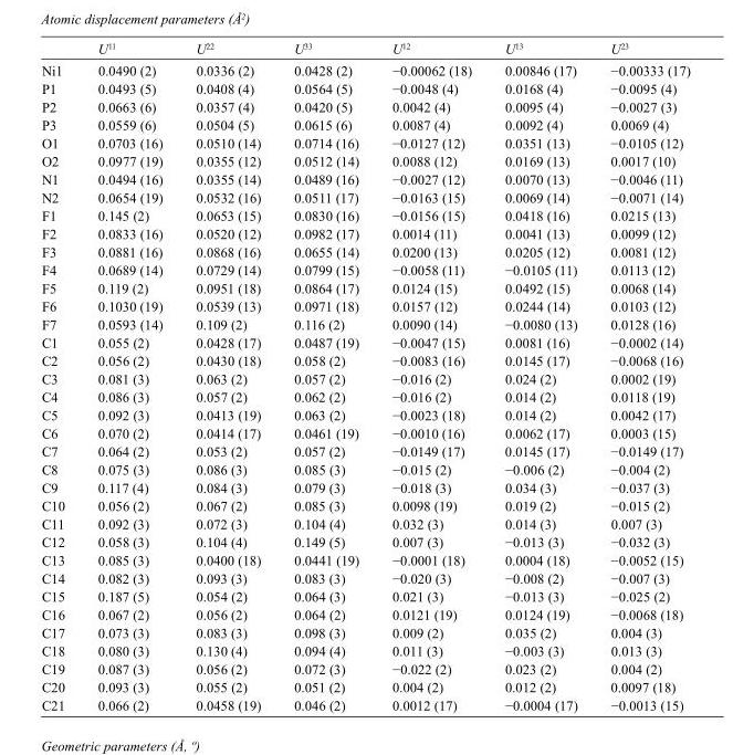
<table><thead><tr><td></td><td>U<sup>11</sup></td><td>U<sup>22</sup></td><td>U<sup>33</sup></td><td>U<sup>12</sup></td><td>U<sup>13</sup></td><td>U<sup>23</sup></td></tr></thead><tbody><tr><td>Ni1</td><td>0.0490 (2)</td><td>0.0336 (2)</td><td>0.0428 (2)</td><td>−0.00062 (18)</td><td>0.00846 (17)</td><td>−0.00333 (17)</td></tr><tr><td>P1</td><td>0.0493 (5)</td><td>0.0408 (4)</td><td>0.0564 (5)</td><td>−0.0048 (4)</td><td>0.0168 (4)</td><td>−0.0095 (4)</td></tr><tr><td>P2</td><td>0.0663 (6)</td><td>0.0357 (4)</td><td>0.0420 (5)</td><td>0.0042 (4)</td><td>0.0095 (4)</td><td>−0.0027 (3)</td></tr><tr><td>P3</td><td>0.0559 (6)</td><td>0.0504 (5)</td><td>0.0615 (6)</td><td>0.0087 (4)</td><td>0.0092 (4)</td><td>0.0069 (4)</td></tr><tr><td>O1</td><td>0.0703 (16)</td><td>0.0510 (14)</td><td>0.0714 (16)</td><td>−0.0127 (12)</td><td>0.0351 (13)</td><td>−0.0105 (12)</td></tr><tr><td>O2</td><td>0.0977 (19)</td><td>0.0355 (12)</td><td>0.0512 (14)</td><td>0.0088 (12)</td><td>0.0169 (13)</td><td>0.0017 (10)</td></tr><tr><td>N1</td><td>0.0494 (16)</td><td>0.0355 (14)</td><td>0.0489 (16)</td><td>−0.0027 (12)</td><td>0.0070 (13)</td><td>−0.0046 (11)</td></tr><tr><td>N2</td><td>0.0654 (19)</td><td>0.0532 (16)</td><td>0.0511 (17)</td><td>−0.0163 (15)</td><td>0.0069 (14)</td><td>−0.0071 (14)</td></tr><tr><td>F1</td><td>0.145 (2)</td><td>0.0653 (15)</td><td>0.0830 (16)</td><td>−0.0156 (15)</td><td>0.0418 (16)</td><td>0.0215 (13)</td></tr><tr><td>F2</td><td>0.0833 (16)</td><td>0.0520 (12)</td><td>0.0982 (17)</td><td>0.0014 (11)</td><td>0.0041 (13)</td><td>0.0099 (12)</td></tr><tr><td>F3</td><td>0.0881 (16)</td><td>0.0868 (16)</td><td>0.0655 (14)</td><td>0.0200 (13)</td><td>0.0205 (12)</td><td>0.0081 (12)</td></tr><tr><td>F4</td><td>0.0689 (14)</td><td>0.0729 (14)</td><td>0.0799 (15)</td><td>−0.0058 (11)</td><td>−0.0105 (11)</td><td>0.0113 (12)</td></tr><tr><td>F5</td><td>0.119 (2)</td><td>0.0951 (18)</td><td>0.0864 (17)</td><td>0.0124 (15)</td><td>0.0492 (15)</td><td>0.0068 (14)</td></tr><tr><td>F6</td><td>0.1030 (19)</td><td>0.0539 (13)</td><td>0.0971 (18)</td><td>0.0157 (12)</td><td>0.0244 (14)</td><td>0.0103 (12)</td></tr><tr><td>F7</td><td>0.0593 (14)</td><td>0.109 (2)</td><td>0.116 (2)</td><td>0.0090 (14)</td><td>−0.0080 (13)</td><td>0.0128 (16)</td></tr><tr><td>C1</td><td>0.055 (2)</td><td>0.0428 (17)</td><td>0.0487 (19)</td><td>−0.0047 (15)</td><td>0.0081 (16)</td><td>−0.0002 (14)</td></tr><tr><td>C2</td><td>0.056 (2)</td><td>0.0430 (18)</td><td>0.058 (2)</td><td>−0.0083 (16)</td><td>0.0145 (17)</td><td>−0.0068 (16)</td></tr><tr><td>C3</td><td>0.081 (3)</td><td>0.063 (2)</td><td>0.057 (2)</td><td>−0.016 (2)</td><td>0.024 (2)</td><td>0.0002 (19)</td></tr><tr><td>C4</td><td>0.086 (3)</td><td>0.057 (2)</td><td>0.062 (2)</td><td>−0.016 (2)</td><td>0.014 (2)</td><td>0.0118 (19)</td></tr><tr><td>C5</td><td>0.092 (3)</td><td>0.0413 (19)</td><td>0.063 (2)</td><td>−0.0023 (18)</td><td>0.014 (2)</td><td>0.0042 (17)</td></tr><tr><td>C6</td><td>0.070 (2)</td><td>0.0414 (17)</td><td>0.0461 (19)</td><td>−0.0010 (16)</td><td>0.0062 (17)</td><td>0.0003 (15)</td></tr><tr><td>C7</td><td>0.064 (2)</td><td>0.053 (2)</td><td>0.057 (2)</td><td>−0.0149 (17)</td><td>0.0145 (17)</td><td>−0.0149 (17)</td></tr><tr><td>C8</td><td>0.075 (3)</td><td>0.086 (3)</td><td>0.085 (3)</td><td>−0.015 (2)</td><td>−0.006 (2)</td><td>−0.004 (2)</td></tr><tr><td>C9</td><td>0.117 (4)</td><td>0.084 (3)</td><td>0.079 (3)</td><td>−0.018 (3)</td><td>0.034 (3)</td><td>−0.037 (3)</td></tr><tr><td>C10</td><td>0.056 (2)</td><td>0.067 (2)</td><td>0.085 (3)</td><td>0.0098 (19)</td><td>0.019 (2)</td><td>−0.015 (2)</td></tr><tr><td>C11</td><td>0.092 (3)</td><td>0.072 (3)</td><td>0.104 (4)</td><td>0.032 (3)</td><td>0.014 (3)</td><td>0.007 (3)</td></tr><tr><td>C12</td><td>0.058 (3)</td><td>0.104 (4)</td><td>0.149 (5)</td><td>0.007 (3)</td><td>−0.013 (3)</td><td>−0.032 (3)</td></tr><tr><td>C13</td><td>0.085 (3)</td><td>0.0400 (18)</td><td>0.0441 (19)</td><td>−0.0001 (18)</td><td>0.0004 (18)</td><td>−0.0052 (15)</td></tr><tr><td>C14</td><td>0.082 (3)</td><td>0.093 (3)</td><td>0.083 (3)</td><td>−0.020 (3)</td><td>−0.008 (2)</td><td>−0.007 (3)</td></tr><tr><td>C15</td><td>0.187 (5)</td><td>0.054 (2)</td><td>0.064 (3)</td><td>0.021 (3)</td><td>−0.013 (3)</td><td>−0.025 (2)</td></tr><tr><td>C16</td><td>0.067 (2)</td><td>0.056 (2)</td><td>0.064 (2)</td><td>0.0121 (19)</td><td>0.0124 (19)</td><td>−0.0068 (18)</td></tr><tr><td>C17</td><td>0.073 (3)</td><td>0.083 (3)</td><td>0.098 (3)</td><td>0.009 (2)</td><td>0.035 (2)</td><td>0.004 (3)</td></tr><tr><td>C18</td><td>0.080 (3)</td><td>0.130 (4)</td><td>0.094 (4)</td><td>0.011 (3)</td><td>−0.003 (3)</td><td>0.013 (3)</td></tr><tr><td>C19</td><td>0.087 (3)</td><td>0.056 (2)</td><td>0.072 (3)</td><td>−0.022 (2)</td><td>0.023 (2)</td><td>0.004 (2)</td></tr><tr><td>C20</td><td>0.093 (3)</td><td>0.055 (2)</td><td>0.051 (2)</td><td>0.004 (2)</td><td>0.012 (2)</td><td>0.0097 (18)</td></tr><tr><td>C21</td><td>0.066 (2)</td><td>0.0458 (19)</td><td>0.046 (2)</td><td>0.0012 (17)</td><td>−0.0004 (17)</td><td>−0.0013 (15)</td></tr></tbody></table>